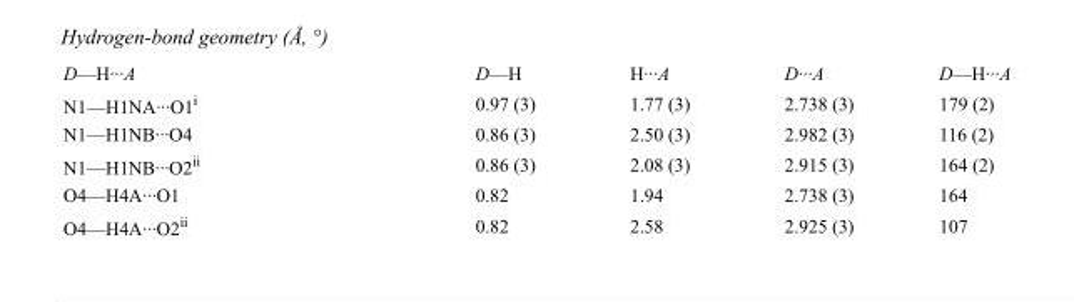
<table><tbody><tr><td>D—H···A</td><td>D—H</td><td>H···A</td><td>D···A</td><td>D—H···A</td></tr><tr><td>N1—H1NA···O1<sup>i</sup></td><td>0.97 (3)</td><td>1.77 (3)</td><td>2.738 (3)</td><td>179 (2)</td></tr><tr><td>N1—H1NB···O4</td><td>0.86 (3)</td><td>2.50 (3)</td><td>2.982 (3)</td><td>116 (2)</td></tr><tr><td>N1—H1NB···O2<sup>ii</sup></td><td>0.86 (3)</td><td>2.08 (3)</td><td>2.915 (3)</td><td>164 (2)</td></tr><tr><td>O4—H4A···O1</td><td>0.82</td><td>1.94</td><td>2.738 (3)</td><td>164</td></tr><tr><td>O4—H4A···O2<sup>ii</sup></td><td>0.82</td><td>2.58</td><td>2.925 (3)</td><td>107</td></tr></tbody></table>